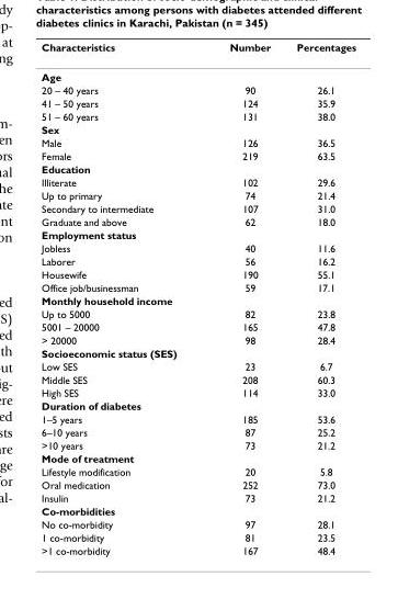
<table><thead><tr><td>Characteristics</td><td>Number</td><td>Percentages</td></tr></thead><tbody><tr><td colspan="3">Age</td></tr><tr><td>20 – 40 years</td><td>90</td><td>26.1</td></tr><tr><td>41 – 50 years</td><td>124</td><td>35.9</td></tr><tr><td>51 – 60 years</td><td>131</td><td>38.0</td></tr><tr><td colspan="3">Sex</td></tr><tr><td>Male</td><td>126</td><td>36.5</td></tr><tr><td>Female</td><td>219</td><td>63.5</td></tr><tr><td colspan="3">Education</td></tr><tr><td>Illiterate</td><td>102</td><td>29.6</td></tr><tr><td>Up to primary</td><td>74</td><td>21.4</td></tr><tr><td>Secondary to intermediate</td><td>107</td><td>31.0</td></tr><tr><td>Graduate and above</td><td>62</td><td>18.0</td></tr><tr><td colspan="3">Employment status</td></tr><tr><td>Jobless</td><td>40</td><td>11.6</td></tr><tr><td>Laborer</td><td>56</td><td>16.2</td></tr><tr><td>Housewife</td><td>190</td><td>55.1</td></tr><tr><td>Office job/businessman</td><td>59</td><td>17.1</td></tr><tr><td colspan="3">Monthly household income</td></tr><tr><td>Up to 5000</td><td>82</td><td>23.8</td></tr><tr><td>5001 – 20000</td><td>165</td><td>47.8</td></tr><tr><td>&gt; 20000</td><td>98</td><td>28.4</td></tr><tr><td colspan="3">Socioeconomic status (SES)</td></tr><tr><td>Low SES</td><td>23</td><td>6.7</td></tr><tr><td>Middle SES</td><td>208</td><td>60.3</td></tr><tr><td>High SES</td><td>114</td><td>33.0</td></tr><tr><td colspan="3">Duration of diabetes</td></tr><tr><td>1–5 years</td><td>185</td><td>53.6</td></tr><tr><td>6–10 years</td><td>87</td><td>25.2</td></tr><tr><td>&gt;10 years</td><td>73</td><td>21.2</td></tr><tr><td colspan="3">Mode of treatment</td></tr><tr><td>Lifestyle modification</td><td>20</td><td>5.8</td></tr><tr><td>Oral medication</td><td>252</td><td>73.0</td></tr><tr><td>Insulin</td><td>73</td><td>21.2</td></tr><tr><td colspan="3">Co-morbidities</td></tr><tr><td>No co-morbidity</td><td>97</td><td>28.1</td></tr><tr><td>1 co-morbidity</td><td>81</td><td>23.5</td></tr><tr><td>&gt;1 co-morbidity</td><td>167</td><td>48.4</td></tr></tbody></table>